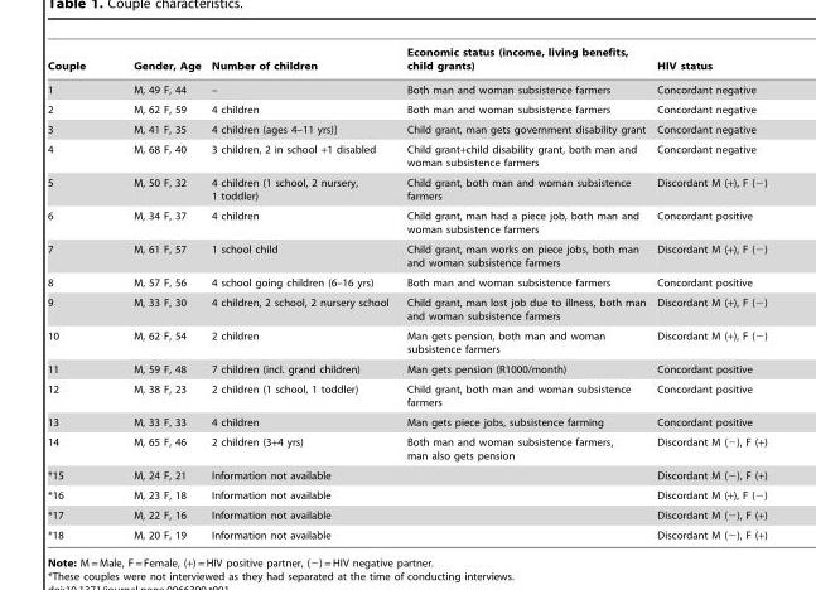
<table><thead><tr><td>Couple</td><td>Gender, Age</td><td>Number of children</td><td>Economic status (income, living benefits, child grants)</td><td>HIV status</td></tr></thead><tbody><tr><td>1</td><td>M, 49 F, 44</td><td>–</td><td>Both man and woman subsistence farmers</td><td>Concordant negative</td></tr><tr><td>2</td><td>M, 62 F, 59</td><td>4 children</td><td>Both man and woman subsistence farmers</td><td>Concordant negative</td></tr><tr><td>3</td><td>M, 41 F, 35</td><td>4 children (ages 4–11 yrs)]</td><td>Child grant, man gets government disability grant</td><td>Concordant negative</td></tr><tr><td>4</td><td>M, 68 F, 40</td><td>3 children, 2 in school +1 disabled</td><td>Child grant+child disability grant, both man and woman subsistence farmers</td><td>Concordant negative</td></tr><tr><td>5</td><td>M, 50 F, 32</td><td>4 children (1 school, 2 nursery, 1 toddler)</td><td>Child grant, both man and woman subsistence farmers</td><td>Discordant M (+), F (−)</td></tr><tr><td>6</td><td>M, 34 F, 37</td><td>4 children</td><td>Child grant, man had a piece job, both man and woman subsistence farmers</td><td>Concordant positive</td></tr><tr><td>7</td><td>M, 61 F, 57</td><td>1 school child</td><td>Child grant, man works on piece jobs, both man and woman subsistence farmers</td><td>Discordant M (+), F (−)</td></tr><tr><td>8</td><td>M, 57 F, 56</td><td>4 school going children (6–16 yrs)</td><td>Both man and woman subsistence farmers</td><td>Concordant positive</td></tr><tr><td>9</td><td>M, 33 F, 30</td><td>4 children, 2 school, 2 nursery school</td><td>Child grant, man lost job due to illness, both man and woman subsistence farmers</td><td>Discordant M (+), F (−)</td></tr><tr><td>10</td><td>M, 62 F, 54</td><td>2 children</td><td>Man gets pension, both man and woman subsistence farmers</td><td>Discordant M (+), F (−)</td></tr><tr><td>11</td><td>M, 59 F, 48</td><td>7 children (incl. grand children)</td><td>Man gets pension (R1000/month)</td><td>Concordant positive</td></tr><tr><td>12</td><td>M, 38 F, 23</td><td>2 children (1 school, 1 toddler)</td><td>Child grant, both man and woman subsistence farmers</td><td>Concordant positive</td></tr><tr><td>13</td><td>M, 33 F, 33</td><td>4 children</td><td>Man gets piece jobs, subsistence farming</td><td>Concordant positive</td></tr><tr><td>14</td><td>M, 65 F, 46</td><td>2 children (3+4 yrs)</td><td>Both man and woman subsistence farmers, man also gets pension</td><td>Discordant M (−), F (+)</td></tr><tr><td>*15</td><td>M, 24 F, 21</td><td colspan="2">Information not available</td><td>Discordant M (−), F (+)</td></tr><tr><td>*16</td><td>M, 23 F, 18</td><td colspan="2">Information not available</td><td>Discordant M (+), F (−)</td></tr><tr><td>*17</td><td>M, 22 F, 16</td><td colspan="2">Information not available</td><td>Discordant M (−), F (+)</td></tr><tr><td>*18</td><td>M, 20 F, 19</td><td colspan="2">Information not available</td><td>Discordant M (−), F (+)</td></tr></tbody></table>